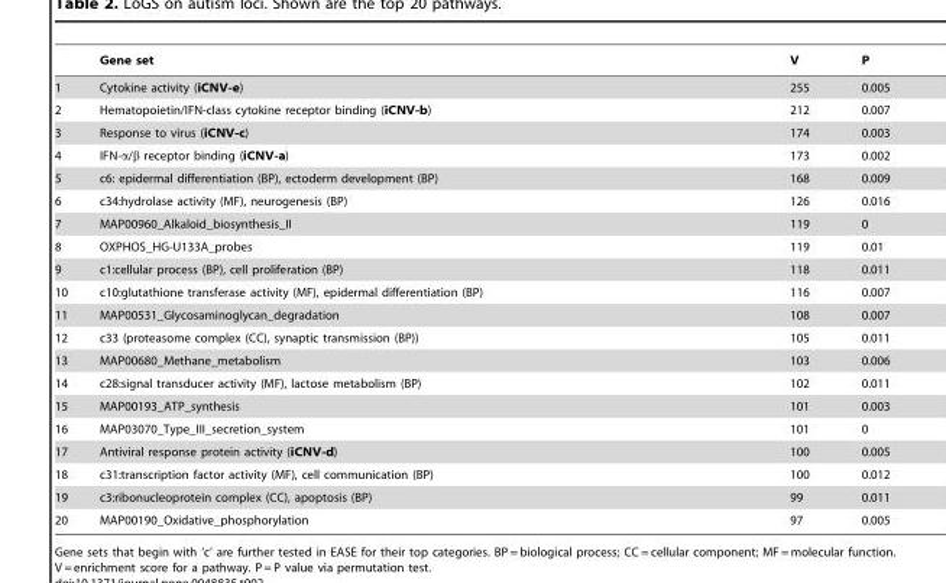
<table><thead><tr><td></td><td>Gene set</td><td>V</td><td>P</td></tr></thead><tbody><tr><td>1</td><td>Cytokine activity (iCNV-e)</td><td>255</td><td>0.005</td></tr><tr><td>2</td><td>Hematopoietin/IFN-class cytokine receptor binding (iCNV-b)</td><td>212</td><td>0.007</td></tr><tr><td>3</td><td>Response to virus (iCNV-c)</td><td>174</td><td>0.003</td></tr><tr><td>4</td><td>IFN-α/β receptor binding (iCNV-a)</td><td>173</td><td>0.002</td></tr><tr><td>5</td><td>c6: epidermal differentiation (BP), ectoderm development (BP)</td><td>168</td><td>0.009</td></tr><tr><td>6</td><td>c34:hydrolase activity (MF), neurogenesis (BP)</td><td>126</td><td>0.016</td></tr><tr><td>7</td><td>MAP00960_Alkaloid_biosynthesis_II</td><td>119</td><td>0</td></tr><tr><td>8</td><td>OXPHOS_HG-U133A_probes</td><td>119</td><td>0.01</td></tr><tr><td>9</td><td>c1:cellular process (BP), cell proliferation (BP)</td><td>118</td><td>0.011</td></tr><tr><td>10</td><td>c10:glutathione transferase activity (MF), epidermal differentiation (BP)</td><td>116</td><td>0.007</td></tr><tr><td>11</td><td>MAP00531_Glycosaminoglycan_degradation</td><td>108</td><td>0.007</td></tr><tr><td>12</td><td>c33 (proteasome complex (CC), synaptic transmission (BP))</td><td>105</td><td>0.011</td></tr><tr><td>13</td><td>MAP00680_Methane_metabolism</td><td>103</td><td>0.006</td></tr><tr><td>14</td><td>c28:signal transducer activity (MF), lactose metabolism (BP)</td><td>102</td><td>0.011</td></tr><tr><td>15</td><td>MAP00193_ATP_synthesis</td><td>101</td><td>0.003</td></tr><tr><td>16</td><td>MAP03070_Type_III_secretion_system</td><td>101</td><td>0</td></tr><tr><td>17</td><td>Antiviral response protein activity (iCNV-d)</td><td>100</td><td>0.005</td></tr><tr><td>18</td><td>c31:transcription factor activity (MF), cell communication (BP)</td><td>100</td><td>0.012</td></tr><tr><td>19</td><td>c3:ribonucleoprotein complex (CC), apoptosis (BP)</td><td>99</td><td>0.011</td></tr><tr><td>20</td><td>MAP00190_Oxidative_phosphorylation</td><td>97</td><td>0.005</td></tr></tbody></table>